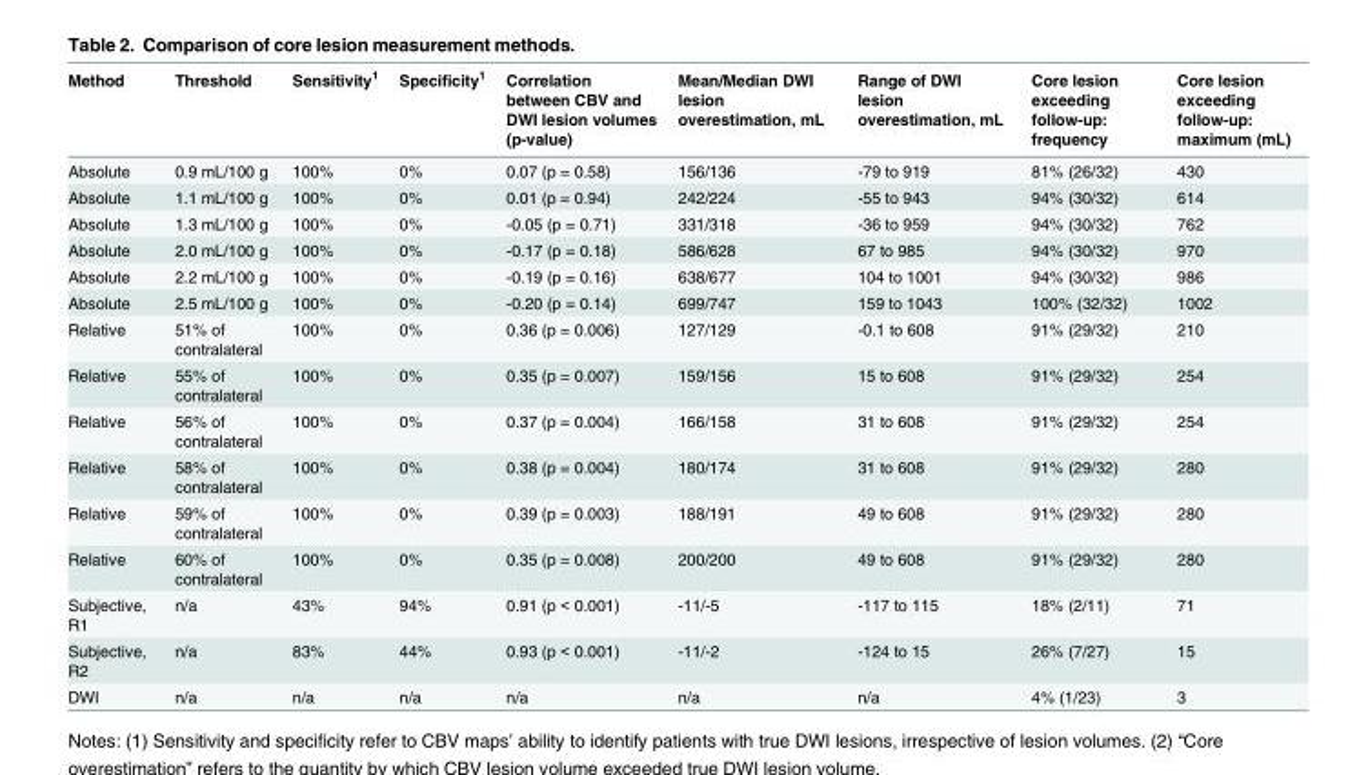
<table><thead><tr><td>Method</td><td>Threshold</td><td>Sensitivity<sup>1</sup></td><td>Specificity<sup>1</sup></td><td>Correlation between CBV and DWI lesion volumes (p-value)</td><td>Mean/Median DWI lesion overestimation, mL</td><td>Range of DWI lesion overestimation, mL</td><td>Core lesion exceeding follow-up: frequency</td><td>Core lesion exceeding follow-up: maximum (mL)</td></tr></thead><tbody><tr><td>Absolute</td><td>0.9 mL/100 g</td><td>100%</td><td>0%</td><td>0.07 (p = 0.58)</td><td>156/136</td><td>-79 to 919</td><td>81% (26/32)</td><td>430</td></tr><tr><td>Absolute</td><td>1.1 mL/100 g</td><td>100%</td><td>0%</td><td>0.01 (p = 0.94)</td><td>242/224</td><td>-55 to 943</td><td>94% (30/32)</td><td>614</td></tr><tr><td>Absolute</td><td>1.3 mL/100 g</td><td>100%</td><td>0%</td><td>-0.05 (p = 0.71)</td><td>331/318</td><td>-36 to 959</td><td>94% (30/32)</td><td>762</td></tr><tr><td>Absolute</td><td>2.0 mL/100 g</td><td>100%</td><td>0%</td><td>-0.17 (p = 0.18)</td><td>586/628</td><td>67 to 985</td><td>94% (30/32)</td><td>970</td></tr><tr><td>Absolute</td><td>2.2 mL/100 g</td><td>100%</td><td>0%</td><td>-0.19 (p = 0.16)</td><td>638/677</td><td>104 to 1001</td><td>94% (30/32)</td><td>986</td></tr><tr><td>Absolute</td><td>2.5 mL/100 g</td><td>100%</td><td>0%</td><td>-0.20 (p = 0.14)</td><td>699/747</td><td>159 to 1043</td><td>100% (32/32)</td><td>1002</td></tr><tr><td>Relative</td><td>51% of contralateral</td><td>100%</td><td>0%</td><td>0.36 (p = 0.006)</td><td>127/129</td><td>-0.1 to 608</td><td>91% (29/32)</td><td>210</td></tr><tr><td>Relative</td><td>55% of contralateral</td><td>100%</td><td>0%</td><td>0.35 (p = 0.007)</td><td>159/156</td><td>15 to 608</td><td>91% (29/32)</td><td>254</td></tr><tr><td>Relative</td><td>56% of contralateral</td><td>100%</td><td>0%</td><td>0.37 (p = 0.004)</td><td>166/158</td><td>31 to 608</td><td>91% (29/32)</td><td>254</td></tr><tr><td>Relative</td><td>58% of contralateral</td><td>100%</td><td>0%</td><td>0.38 (p = 0.004)</td><td>180/174</td><td>31 to 608</td><td>91% (29/32)</td><td>280</td></tr><tr><td>Relative</td><td>59% of contralateral</td><td>100%</td><td>0%</td><td>0.39 (p = 0.003)</td><td>188/191</td><td>49 to 608</td><td>91% (29/32)</td><td>280</td></tr><tr><td>Relative</td><td>60% of contralateral</td><td>100%</td><td>0%</td><td>0.35 (p = 0.008)</td><td>200/200</td><td>49 to 608</td><td>91% (29/32)</td><td>280</td></tr><tr><td>Subjective, R1</td><td>n/a</td><td>43%</td><td>94%</td><td>0.91 (p &lt; 0.001)</td><td>-11/-5</td><td>-117 to 115</td><td>18% (2/11)</td><td>71</td></tr><tr><td>Subjective, R2</td><td>n/a</td><td>83%</td><td>44%</td><td>0.93 (p &lt; 0.001)</td><td>-11/-2</td><td>-124 to 15</td><td>26% (7/27)</td><td>15</td></tr><tr><td>DWI</td><td>n/a</td><td>n/a</td><td>n/a</td><td>n/a</td><td>n/a</td><td>n/a</td><td>4% (1/23)</td><td>3</td></tr></tbody></table>